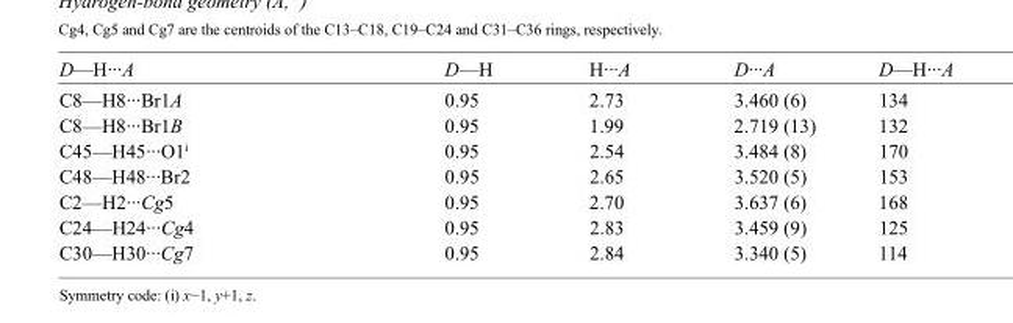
<table><tbody><tr><td>D—H···A</td><td>D—H</td><td>H···A</td><td>D···A</td><td>D—H···A</td></tr><tr><td>C8—H8···Br1A</td><td>0.95</td><td>2.73</td><td>3.460 (6)</td><td>134</td></tr><tr><td>C8—H8···Br1B</td><td>0.95</td><td>1.99</td><td>2.719 (13)</td><td>132</td></tr><tr><td>C45—H45···O1<sup>i</sup></td><td>0.95</td><td>2.54</td><td>3.484 (8)</td><td>170</td></tr><tr><td>C48—H48···Br2</td><td>0.95</td><td>2.65</td><td>3.520 (5)</td><td>153</td></tr><tr><td>C2—H2···Cg5</td><td>0.95</td><td>2.70</td><td>3.637 (6)</td><td>168</td></tr><tr><td>C24—H24···Cg4</td><td>0.95</td><td>2.83</td><td>3.459 (9)</td><td>125</td></tr><tr><td>C30—H30···Cg7</td><td>0.95</td><td>2.84</td><td>3.340 (5)</td><td>114</td></tr></tbody></table>